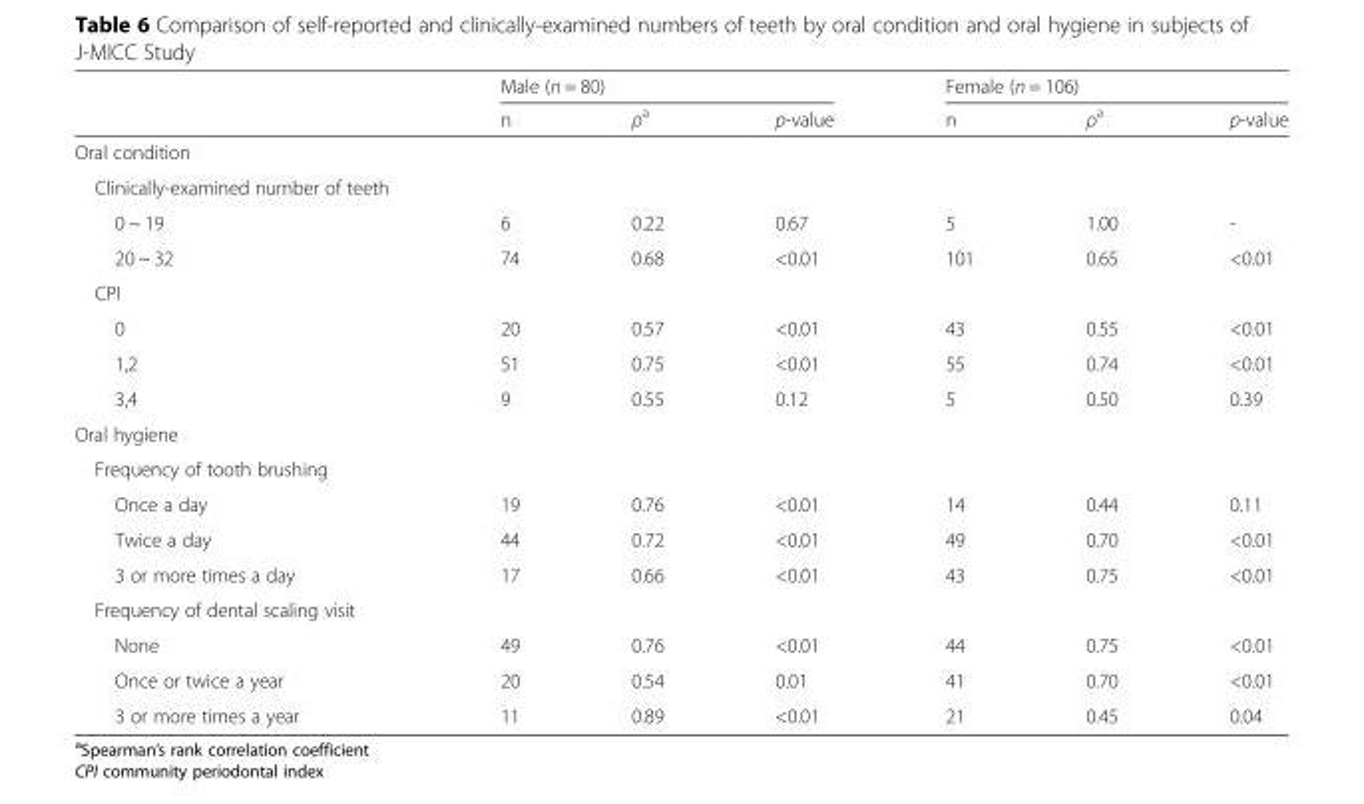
<table><thead><tr><td rowspan="2"></td><td colspan="3">Male (n = 80)</td><td colspan="3">Female (n = 106)</td></tr><tr><td>n</td><td>ρ<sup>a</sup></td><td>p-value</td><td>n</td><td>ρ<sup>a</sup></td><td>p-value</td></tr></thead><tbody><tr><td colspan="7">Oral condition</td></tr><tr><td colspan="7">Clinically-examined number of teeth</td></tr><tr><td>0 ~ 19</td><td>6</td><td>0.22</td><td>0.67</td><td>5</td><td>1.00</td><td>-</td></tr><tr><td>20 ~ 32</td><td>74</td><td>0.68</td><td>&lt;0.01</td><td>101</td><td>0.65</td><td>&lt;0.01</td></tr><tr><td colspan="7">CPI</td></tr><tr><td>0</td><td>20</td><td>0.57</td><td>&lt;0.01</td><td>43</td><td>0.55</td><td>&lt;0.01</td></tr><tr><td>1,2</td><td>51</td><td>0.75</td><td>&lt;0.01</td><td>55</td><td>0.74</td><td>&lt;0.01</td></tr><tr><td>3,4</td><td>9</td><td>0.55</td><td>0.12</td><td>5</td><td>0.50</td><td>0.39</td></tr><tr><td colspan="7">Oral hygiene</td></tr><tr><td colspan="7">Frequency of tooth brushing</td></tr><tr><td>Once a day</td><td>19</td><td>0.76</td><td>&lt;0.01</td><td>14</td><td>0.44</td><td>0.11</td></tr><tr><td>Twice a day</td><td>44</td><td>0.72</td><td>&lt;0.01</td><td>49</td><td>0.70</td><td>&lt;0.01</td></tr><tr><td>3 or more times a day</td><td>17</td><td>0.66</td><td>&lt;0.01</td><td>43</td><td>0.75</td><td>&lt;0.01</td></tr><tr><td colspan="7">Frequency of dental scaling visit</td></tr><tr><td>None</td><td>49</td><td>0.76</td><td>&lt;0.01</td><td>44</td><td>0.75</td><td>&lt;0.01</td></tr><tr><td>Once or twice a year</td><td>20</td><td>0.54</td><td>0.01</td><td>41</td><td>0.70</td><td>&lt;0.01</td></tr><tr><td>3 or more times a year</td><td>11</td><td>0.89</td><td>&lt;0.01</td><td>21</td><td>0.45</td><td>0.04</td></tr></tbody></table>